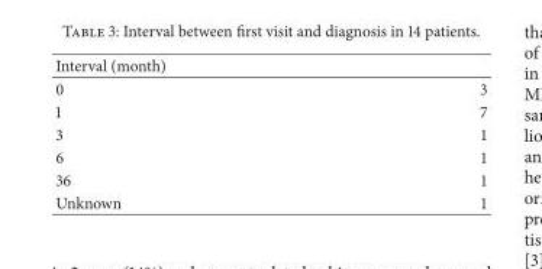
<table><thead><tr><td>Interval (month)</td><td></td></tr></thead><tbody><tr><td>0</td><td>3</td></tr><tr><td>1</td><td>7</td></tr><tr><td>3</td><td>1</td></tr><tr><td>6</td><td>1</td></tr><tr><td>36</td><td>1</td></tr><tr><td>Unknown</td><td>1</td></tr></tbody></table>